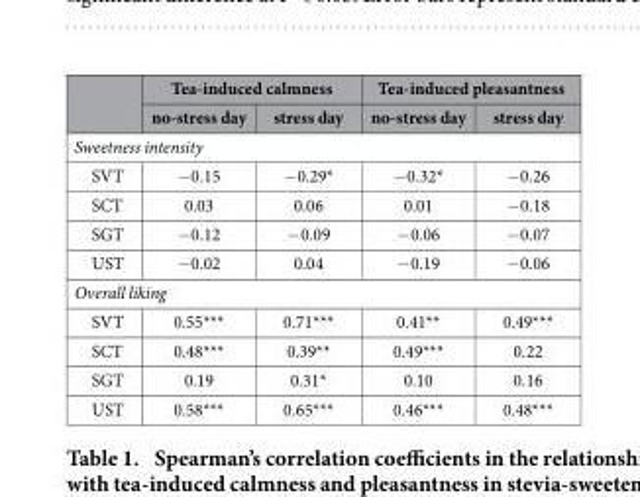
<table><thead><tr><td rowspan="2"></td><td colspan="2">Tea-induced calmness</td><td colspan="2">Tea-induced pleasantness</td></tr><tr><td>no-stress day</td><td>stress day</td><td>no-stress day</td><td>stress day</td></tr></thead><tbody><tr><td colspan="5">Sweetness intensity</td></tr><tr><td>SVT</td><td>− 0.15</td><td>− 0.29*</td><td>− 0.32*</td><td>− 0.26</td></tr><tr><td>SCT</td><td>0.03</td><td>0.06</td><td>0.01</td><td>− 0.18</td></tr><tr><td>SGT</td><td>− 0.12</td><td>− 0.09</td><td>− 0.06</td><td>− 0.07</td></tr><tr><td>UST</td><td>− 0.02</td><td>0.04</td><td>− 0.19</td><td>− 0.06</td></tr><tr><td colspan="5">Overall liking</td></tr><tr><td>SVT</td><td>0.55***</td><td>0.71***</td><td>0.41**</td><td>0.49***</td></tr><tr><td>SCT</td><td>0.48***</td><td>0.39**</td><td>0.49***</td><td>0.22</td></tr><tr><td>SGT</td><td>0.19</td><td>0.31*</td><td>0.10</td><td>0.16</td></tr><tr><td>UST</td><td>0.58***</td><td>0.65***</td><td>0.46***</td><td>0.48***</td></tr></tbody></table>